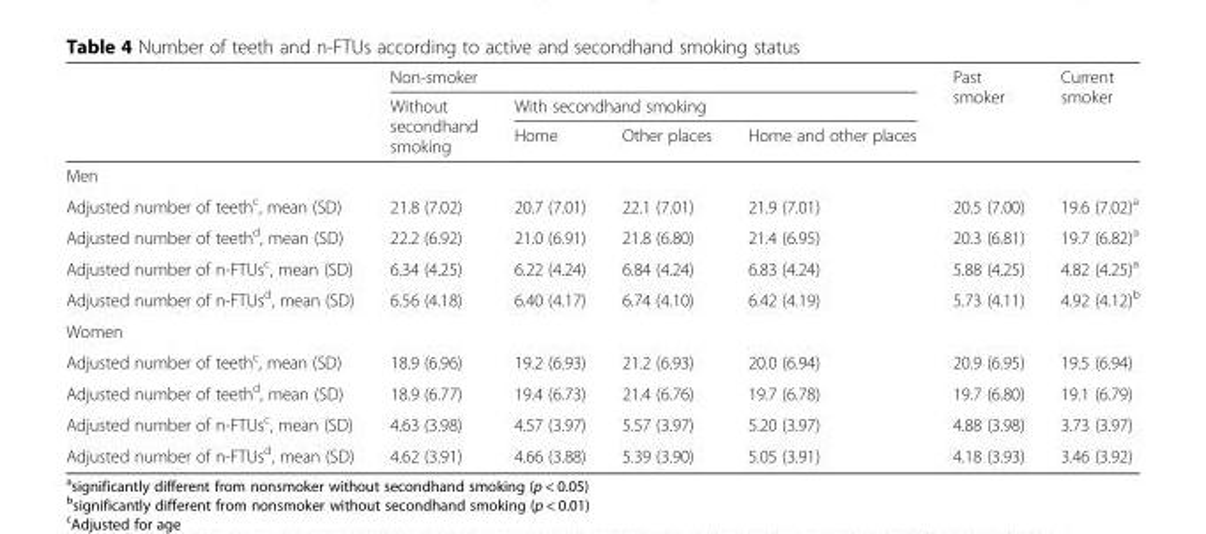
<table><thead><tr><td rowspan="3"></td><td colspan="4">Non-smoker</td><td rowspan="3">Past smoker</td><td rowspan="3">Current smoker</td></tr><tr><td rowspan="2">Without secondhand smoking</td><td colspan="3">With secondhand smoking</td></tr><tr><td>Home</td><td>Other places</td><td>Home and other places</td></tr></thead><tbody><tr><td colspan="7">Men</td></tr><tr><td>Adjusted number of teeth<sup>c</sup>, mean (SD)</td><td>21.8 (7.02)</td><td>20.7 (7.01)</td><td>22.1 (7.01)</td><td>21.9 (7.01)</td><td>20.5 (7.00)</td><td>19.6 (7.02)<sup>a</sup></td></tr><tr><td>Adjusted number of teeth<sup>d</sup>, mean (SD)</td><td>22.2 (6.92)</td><td>21.0 (6.91)</td><td>21.8 (6.80)</td><td>21.4 (6.95)</td><td>20.3 (6.81)</td><td>19.7 (6.82)<sup>a</sup></td></tr><tr><td>Adjusted number of n-FTUs<sup>c</sup>, mean (SD)</td><td>6.34 (4.25)</td><td>6.22 (4.24)</td><td>6.84 (4.24)</td><td>6.83 (4.24)</td><td>5.88 (4.25)</td><td>4.82 (4.25)<sup>a</sup></td></tr><tr><td>Adjusted number of n-FTUs<sup>d</sup>, mean (SD)</td><td>6.56 (4.18)</td><td>6.40 (4.17)</td><td>6.74 (4.10)</td><td>6.42 (4.19)</td><td>5.73 (4.11)</td><td>4.92 (4.12)<sup>b</sup></td></tr><tr><td colspan="7">Women</td></tr><tr><td>Adjusted number of teeth<sup>c</sup>, mean (SD)</td><td>18.9 (6.96)</td><td>19.2 (6.93)</td><td>21.2 (6.93)</td><td>20.0 (6.94)</td><td>20.9 (6.95)</td><td>19.5 (6.94)</td></tr><tr><td>Adjusted number of teeth<sup>d</sup>, mean (SD)</td><td>18.9 (6.77)</td><td>19.4 (6.73)</td><td>21.4 (6.76)</td><td>19.7 (6.78)</td><td>19.7 (6.80)</td><td>19.1 (6.79)</td></tr><tr><td>Adjusted number of n-FTUs<sup>c</sup>, mean (SD)</td><td>4.63 (3.98)</td><td>4.57 (3.97)</td><td>5.57 (3.97)</td><td>5.20 (3.97)</td><td>4.88 (3.98)</td><td>3.73 (3.97)</td></tr><tr><td>Adjusted number of n-FTUs<sup>d</sup>, mean (SD)</td><td>4.62 (3.91)</td><td>4.66 (3.88)</td><td>5.39 (3.90)</td><td>5.05 (3.91)</td><td>4.18 (3.93)</td><td>3.46 (3.92)</td></tr></tbody></table>